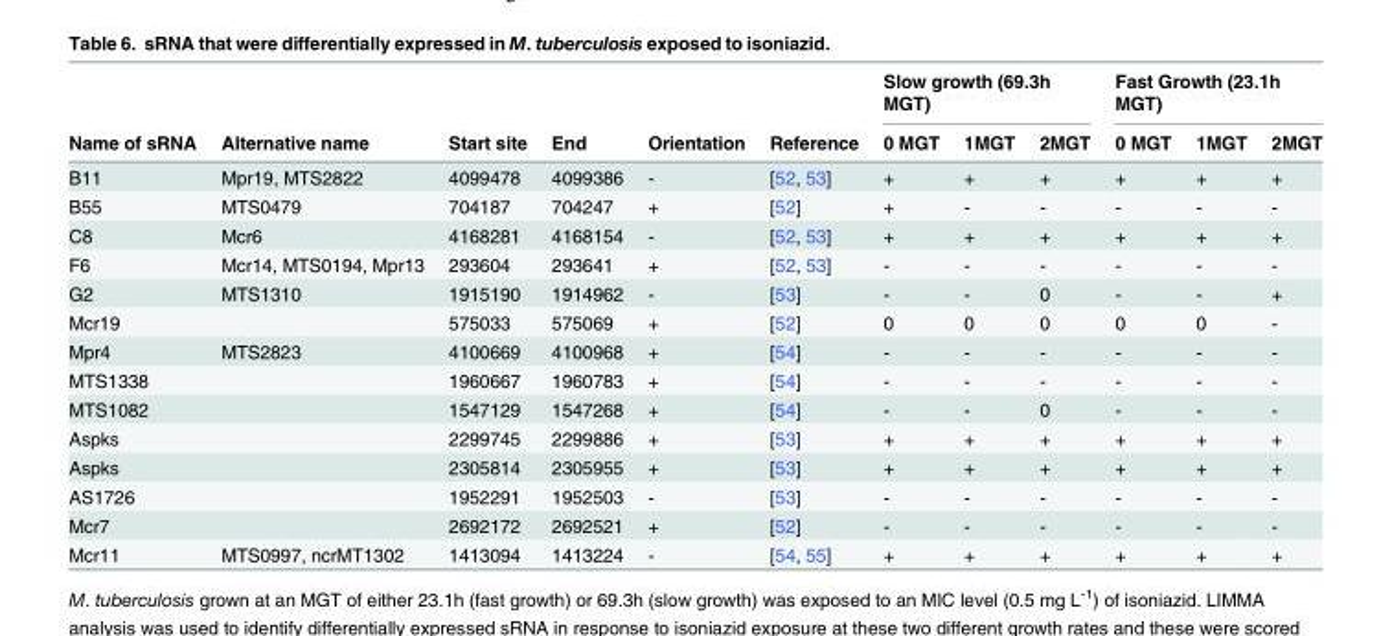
<table><thead><tr><td rowspan="2">Name of sRNA</td><td rowspan="2">Alternative name</td><td rowspan="2">Start site</td><td rowspan="2">End</td><td rowspan="2">Orientation</td><td rowspan="2">Reference</td><td colspan="3">Slow growth (69.3h MGT)</td><td colspan="3">Fast Growth (23.1h MGT)</td></tr><tr><td>0 MGT</td><td>1MGT</td><td>2MGT</td><td>0 MGT</td><td>1MGT</td><td>2MGT</td></tr></thead><tbody><tr><td>B11</td><td>Mpr19, MTS2822</td><td>4099478</td><td>4099386</td><td>-</td><td>[52, 53]</td><td>+</td><td>+</td><td>+</td><td>+</td><td>+</td><td>+</td></tr><tr><td>B55</td><td>MTS0479</td><td>704187</td><td>704247</td><td>+</td><td>[52]</td><td>+</td><td>-</td><td>-</td><td>-</td><td>-</td><td>-</td></tr><tr><td>C8</td><td>Mcr6</td><td>4168281</td><td>4168154</td><td>-</td><td>[52, 53]</td><td>+</td><td>+</td><td>+</td><td>+</td><td>+</td><td>+</td></tr><tr><td>F6</td><td>Mcr14, MTS0194, Mpr13</td><td>293604</td><td>293641</td><td>+</td><td>[52, 53]</td><td>-</td><td>-</td><td>-</td><td>-</td><td>-</td><td>-</td></tr><tr><td>G2</td><td>MTS1310</td><td>1915190</td><td>1914962</td><td>-</td><td>[53]</td><td>-</td><td>-</td><td>0</td><td>-</td><td>-</td><td>+</td></tr><tr><td>Mcr19</td><td></td><td>575033</td><td>575069</td><td>+</td><td>[52]</td><td>0</td><td>0</td><td>0</td><td>0</td><td>0</td><td>-</td></tr><tr><td>Mpr4</td><td>MTS2823</td><td>4100669</td><td>4100968</td><td>+</td><td>[54]</td><td>-</td><td>-</td><td>-</td><td>-</td><td>-</td><td>-</td></tr><tr><td>MTS1338</td><td></td><td>1960667</td><td>1960783</td><td>+</td><td>[54]</td><td>-</td><td>-</td><td>-</td><td>-</td><td>-</td><td>-</td></tr><tr><td>MTS1082</td><td></td><td>1547129</td><td>1547268</td><td>+</td><td>[54]</td><td>-</td><td>-</td><td>0</td><td>-</td><td>-</td><td>-</td></tr><tr><td>Aspks</td><td></td><td>2299745</td><td>2299886</td><td>+</td><td>[53]</td><td>+</td><td>+</td><td>+</td><td>+</td><td>+</td><td>+</td></tr><tr><td>Aspks</td><td></td><td>2305814</td><td>2305955</td><td>+</td><td>[53]</td><td>+</td><td>+</td><td>+</td><td>+</td><td>+</td><td>+</td></tr><tr><td>AS1726</td><td></td><td>1952291</td><td>1952503</td><td>-</td><td>[53]</td><td>-</td><td>-</td><td>-</td><td>-</td><td>-</td><td>-</td></tr><tr><td>Mcr7</td><td></td><td>2692172</td><td>2692521</td><td>+</td><td>[52]</td><td>-</td><td>-</td><td>-</td><td>-</td><td>-</td><td>-</td></tr><tr><td>Mcr11</td><td>MTS0997, ncrMT1302</td><td>1413094</td><td>1413224</td><td>-</td><td>[54, 55]</td><td>+</td><td>+</td><td>+</td><td>+</td><td>+</td><td>+</td></tr></tbody></table>